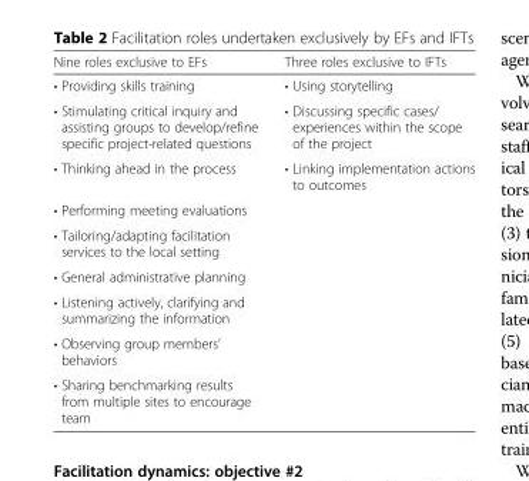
<table><thead><tr><td>Nine roles exclusive to EFs</td><td>Three roles exclusive to IFTs</td></tr></thead><tbody><tr><td>• Providing skills training</td><td>• Using storytelling</td></tr><tr><td>• Stimulating critical inquiry and assisting groups to develop/refine specific project-related questions</td><td>• Discussing specific cases/ experiences within the scope of the project</td></tr><tr><td>• Thinking ahead in the process</td><td>• Linking implementation actions to outcomes</td></tr><tr><td colspan="2">• Performing meeting evaluations</td></tr><tr><td colspan="2">• Tailoring/adapting facilitation services to the local setting</td></tr><tr><td colspan="2">• General administrative planning</td></tr><tr><td colspan="2">• Listening actively, clarifying and summarizing the information</td></tr><tr><td colspan="2">• Observing group members’ behaviors</td></tr><tr><td>• Sharing benchmarking results from multiple sites to encourage team</td><td></td></tr></tbody></table>